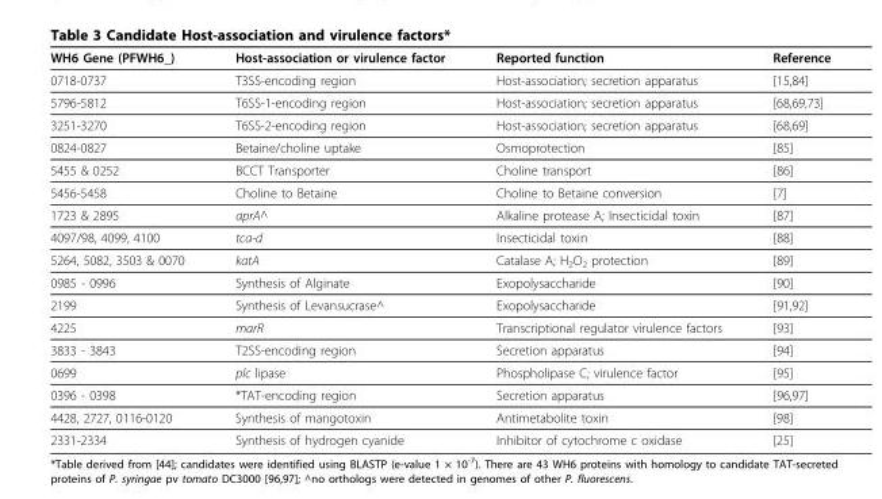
<table><thead><tr><td>WH6 Gene (PFWH6_)</td><td>Host-association or virulence factor</td><td>Reported function</td><td>Reference</td></tr></thead><tbody><tr><td>0718-0737</td><td>T3SS-encoding region</td><td>Host-association; secretion apparatus</td><td>[15,84]</td></tr><tr><td>5796-5812</td><td>T6SS-1-encoding region</td><td>Host-association; secretion apparatus</td><td>[68,69,73]</td></tr><tr><td>3251-3270</td><td>T6SS-2-encoding region</td><td>Host-association; secretion apparatus</td><td>[68,69]</td></tr><tr><td>0824-0827</td><td>Betaine/choline uptake</td><td>Osmoprotection</td><td>[85]</td></tr><tr><td>5455 &amp; 0252</td><td>BCCT Transporter</td><td>Choline transport</td><td>[86]</td></tr><tr><td>5456-5458</td><td>Choline to Betaine</td><td>Choline to Betaine conversion</td><td>[7]</td></tr><tr><td>1723 &amp; 2895</td><td>aprA^</td><td>Alkaline protease A; Insecticidal toxin</td><td>[87]</td></tr><tr><td>4097/98, 4099, 4100</td><td>tca-d</td><td>Insecticidal toxin</td><td>[88]</td></tr><tr><td>5264, 5082, 3503 &amp; 0070</td><td>katA</td><td>Catalase A; H<sub>2</sub>O<sub>2</sub> protection</td><td>[89]</td></tr><tr><td>0985 - 0996</td><td>Synthesis of Alginate</td><td>Exopolysaccharide</td><td>[90]</td></tr><tr><td>2199</td><td>Synthesis of Levansucrase^</td><td>Exopolysaccharide</td><td>[91,92]</td></tr><tr><td>4225</td><td>marR</td><td>Transcriptional regulator virulence factors</td><td>[93]</td></tr><tr><td>3833 - 3843</td><td>T2SS-encoding region</td><td>Secretion apparatus</td><td>[94]</td></tr><tr><td>0699</td><td>plc lipase</td><td>Phospholipase C; virulence factor</td><td>[95]</td></tr><tr><td>0396 - 0398</td><td>*TAT-encoding region</td><td>Secretion apparatus</td><td>[96,97]</td></tr><tr><td>4428, 2727, 0116-0120</td><td>Synthesis of mangotoxin</td><td>Antimetabolite toxin</td><td>[98]</td></tr><tr><td>2331-2334</td><td>Synthesis of hydrogen cyanide</td><td>Inhibitor of cytochrome c oxidase</td><td>[25]</td></tr></tbody></table>